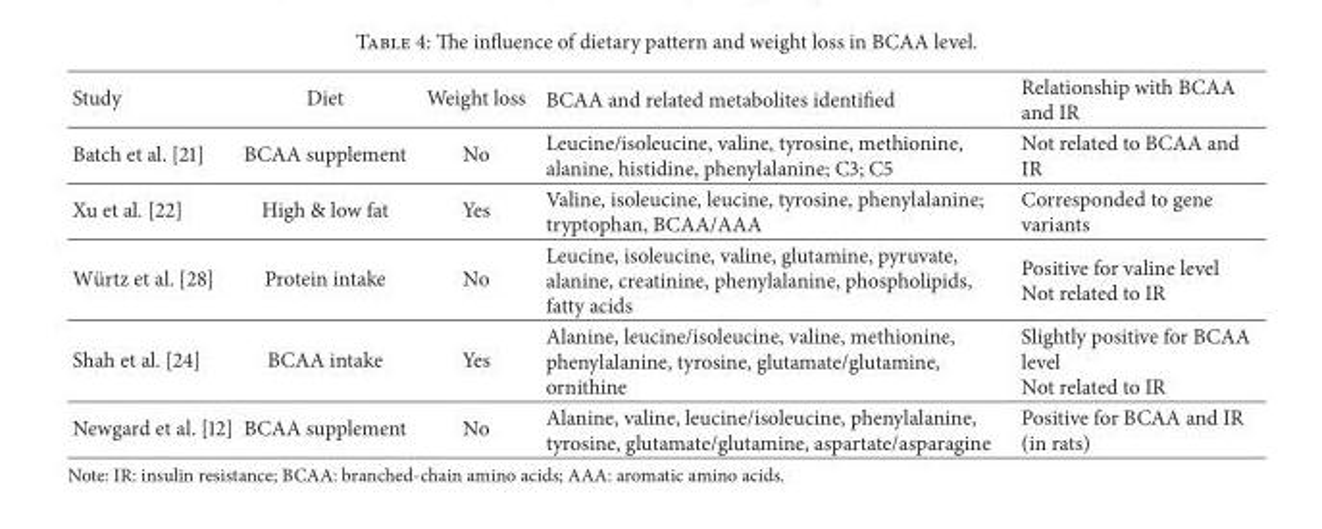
<table><thead><tr><td>Study</td><td>Diet</td><td>Weight loss</td><td>BCAA and related metabolites identified</td><td>Relationship with BCAA and IR</td></tr></thead><tbody><tr><td>Batch et al. [21]</td><td>BCAA supplement</td><td>No</td><td>Leucine/isoleucine, valine, tyrosine, methionine, alanine, histidine, phenylalanine; C3; C5</td><td>Not related to BCAA and IR</td></tr><tr><td>Xu et al. [22]</td><td>High &amp; low fat</td><td>Yes</td><td>Valine, isoleucine, leucine, tyrosine, phenylalanine; tryptophan, BCAA/AAA</td><td>Corresponded to gene variants</td></tr><tr><td>W¨urtz et al. [28]</td><td>Protein intake</td><td>No</td><td>Leucine, isoleucine, valine, glutamine, pyruvate, alanine, creatinine, phenylalanine, phospholipids, fatty acids</td><td>Positive for valine level Not related to IR</td></tr><tr><td>Shah et al. [24]</td><td>BCAA intake</td><td>Yes</td><td>Alanine, leucine/isoleucine, valine, methionine, phenylalanine, tyrosine, glutamate/glutamine, ornithine</td><td>Slightly positive for BCAA level Not related to IR</td></tr><tr><td>Newgard et al. [12]</td><td>BCAA supplement</td><td>No</td><td>Alanine, valine, leucine/isoleucine, phenylalanine, tyrosine, glutamate/glutamine, aspartate/asparagine</td><td>Positive for BCAA and IR (in rats)</td></tr></tbody></table>